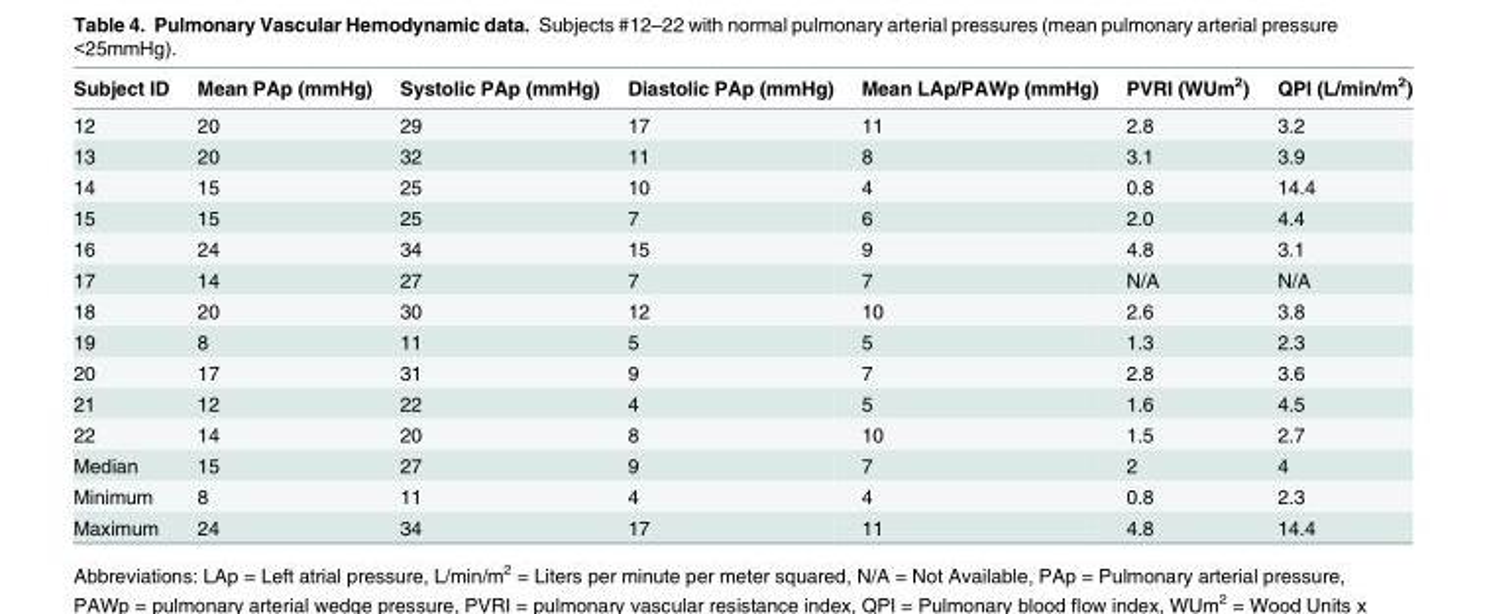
<table><thead><tr><td>Subject ID</td><td>Mean PAp (mmHg)</td><td>Systolic PAp (mmHg)</td><td>Diastolic PAp (mmHg)</td><td>Mean LAp/PAWp (mmHg)</td><td>PVRI (WUm<sup>2</sup>)</td><td>QPI (L/min/m<sup>2</sup>)</td></tr></thead><tbody><tr><td>12</td><td>20</td><td>29</td><td>17</td><td>11</td><td>2.8</td><td>3.2</td></tr><tr><td>13</td><td>20</td><td>32</td><td>11</td><td>8</td><td>3.1</td><td>3.9</td></tr><tr><td>14</td><td>15</td><td>25</td><td>10</td><td>4</td><td>0.8</td><td>14.4</td></tr><tr><td>15</td><td>15</td><td>25</td><td>7</td><td>6</td><td>2.0</td><td>4.4</td></tr><tr><td>16</td><td>24</td><td>34</td><td>15</td><td>9</td><td>4.8</td><td>3.1</td></tr><tr><td>17</td><td>14</td><td>27</td><td>7</td><td>7</td><td>N/A</td><td>N/A</td></tr><tr><td>18</td><td>20</td><td>30</td><td>12</td><td>10</td><td>2.6</td><td>3.8</td></tr><tr><td>19</td><td>8</td><td>11</td><td>5</td><td>5</td><td>1.3</td><td>2.3</td></tr><tr><td>20</td><td>17</td><td>31</td><td>9</td><td>7</td><td>2.8</td><td>3.6</td></tr><tr><td>21</td><td>12</td><td>22</td><td>4</td><td>5</td><td>1.6</td><td>4.5</td></tr><tr><td>22</td><td>14</td><td>20</td><td>8</td><td>10</td><td>1.5</td><td>2.7</td></tr><tr><td>Median</td><td>15</td><td>27</td><td>9</td><td>7</td><td>2</td><td>4</td></tr><tr><td>Minimum</td><td>8</td><td>11</td><td>4</td><td>4</td><td>0.8</td><td>2.3</td></tr><tr><td>Maximum</td><td>24</td><td>34</td><td>17</td><td>11</td><td>4.8</td><td>14.4</td></tr></tbody></table>